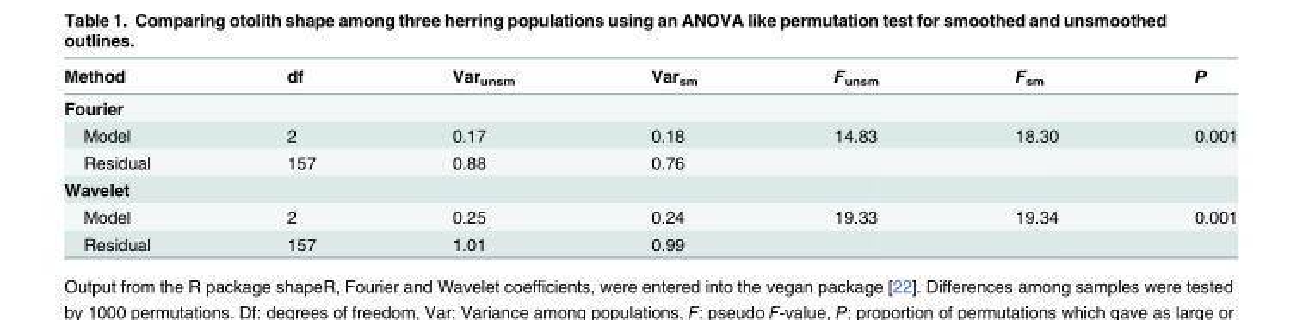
<table><thead><tr><td>Method</td><td>df</td><td>Var<sub>unsm</sub></td><td>Var<sub>sm</sub></td><td>F<sub>unsm</sub></td><td>F<sub>sm</sub></td><td>P</td></tr></thead><tbody><tr><td colspan="7">Fourier</td></tr><tr><td>Model</td><td>2</td><td>0.17</td><td>0.18</td><td>14.83</td><td>18.30</td><td>0.001</td></tr><tr><td>Residual</td><td>157</td><td>0.88</td><td>0.76</td><td></td><td></td><td></td></tr><tr><td colspan="7">Wavelet</td></tr><tr><td>Model</td><td>2</td><td>0.25</td><td>0.24</td><td>19.33</td><td>19.34</td><td>0.001</td></tr><tr><td>Residual</td><td>157</td><td>1.01</td><td>0.99</td><td></td><td></td><td></td></tr></tbody></table>